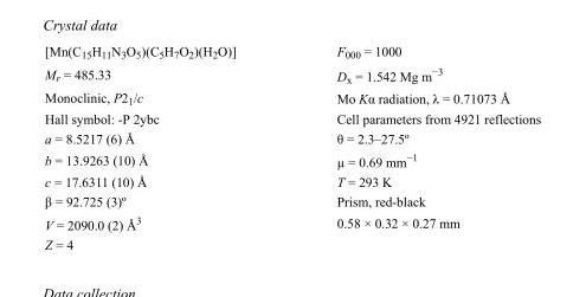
<table><tbody><tr><td>[Mn(C<sub>15</sub>H<sub>11</sub>N<sub>3</sub>O<sub>5</sub>)(C<sub>5</sub>H<sub>7</sub>O<sub>2</sub>)(H<sub>2</sub>O)]</td><td>F000 = 1000</td></tr><tr><td>M<sub>r</sub> = 485.33</td><td>D<sub>x</sub> = 1.542 Mg m<sup>−3</sup></td></tr><tr><td>Monoclinic, P2<sub>1</sub>/c</td><td>Mo Kα radiation, λ = 0.71073 Å</td></tr><tr><td>Hall symbol: -P 2ybc</td><td>Cell parameters from 4921 reflections</td></tr><tr><td>a = 8.5217 (6) Å</td><td>θ = 2.3–27.5º</td></tr><tr><td>b = 13.9263 (10) Å</td><td>µ = 0.69 mm<sup>−1</sup></td></tr><tr><td>c = 17.6311 (10) Å</td><td>T = 293 K</td></tr><tr><td>β = 92.725 (3)º</td><td>Prism, red-black</td></tr><tr><td>V = 2090.0 (2) Å<sup>3</sup></td><td>0.58 × 0.32 × 0.27 mm</td></tr><tr><td>Z = 4</td><td></td></tr></tbody></table>